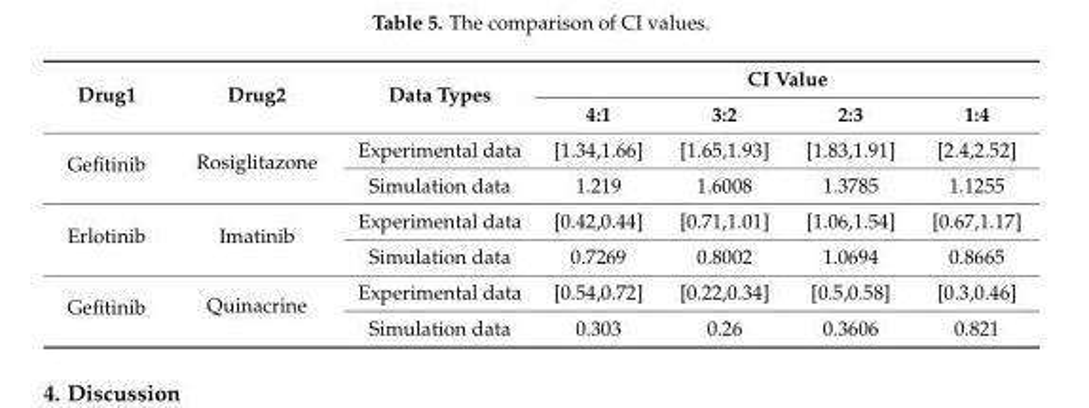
<table><thead><tr><td rowspan="2">Drug1</td><td rowspan="2">Drug2</td><td rowspan="2">Data Types</td><td colspan="4">CI Value</td></tr><tr><td>4:1</td><td>3:2</td><td>2:3</td><td>1:4</td></tr></thead><tbody><tr><td rowspan="2">Gefitinib</td><td rowspan="2">Rosiglitazone</td><td>Experimental data</td><td>[1.34,1.66]</td><td>[1.65,1.93]</td><td>[1.83,1.91]</td><td>[2.4,2.52]</td></tr><tr><td>Simulation data</td><td>1.219</td><td>1.6008</td><td>1.3785</td><td>1.1255</td></tr><tr><td rowspan="2">Erlotinib</td><td rowspan="2">Imatinib</td><td>Experimental data</td><td>[0.42,0.44]</td><td>[0.71,1.01]</td><td>[1.06,1.54]</td><td>[0.67,1.17]</td></tr><tr><td>Simulation data</td><td>0.7269</td><td>0.8002</td><td>1.0694</td><td>0.8665</td></tr><tr><td rowspan="2">Gefitinib</td><td rowspan="2">Quinacrine</td><td>Experimental data</td><td>[0.54,0.72]</td><td>[0.22,0.34]</td><td>[0.5,0.58]</td><td>[0.3,0.46]</td></tr><tr><td>Simulation data</td><td>0.303</td><td>0.26</td><td>0.3606</td><td>0.821</td></tr></tbody></table>